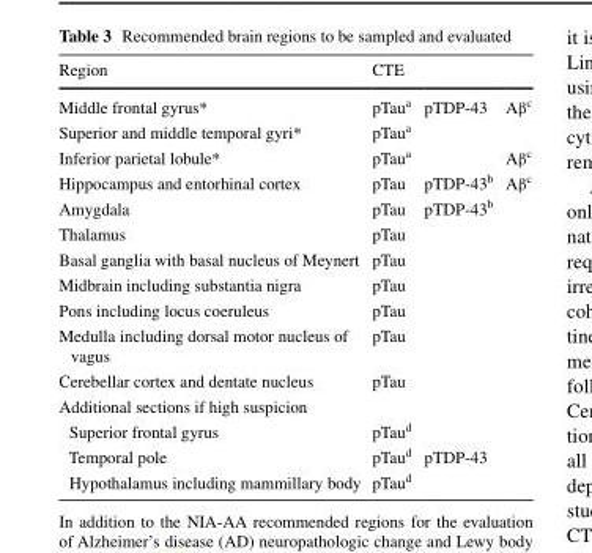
<table><thead><tr><td>Region</td><td>CTE</td><td></td><td></td></tr></thead><tbody><tr><td>Middle frontal gyrus*</td><td>pTau<sup>a</sup></td><td>pTDP-43</td><td>Aβ<sup>c</sup></td></tr><tr><td>Superior and middle temporal gyri*</td><td>pTau<sup>a</sup></td><td></td><td></td></tr><tr><td>Inferior parietal lobule*</td><td>pTau<sup>a</sup></td><td></td><td>Aβ<sup>c</sup></td></tr><tr><td>Hippocampus and entorhinal cortex</td><td>pTau</td><td>pTDP-43<sup>b</sup></td><td>Aβ<sup>c</sup></td></tr><tr><td>Amygdala</td><td>pTau</td><td>pTDP-43<sup>b</sup></td><td></td></tr><tr><td>Thalamus</td><td>pTau</td><td></td><td></td></tr><tr><td>Basal ganglia with basal nucleus of Meynert</td><td>pTau</td><td></td><td></td></tr><tr><td>Midbrain including substantia nigra</td><td>pTau</td><td></td><td></td></tr><tr><td>Pons including locus coeruleus</td><td>pTau</td><td></td><td></td></tr><tr><td>Medulla including dorsal motor nucleus of vagus</td><td>pTau</td><td></td><td></td></tr><tr><td>Cerebellar cortex and dentate nucleus</td><td>pTau</td><td></td><td></td></tr><tr><td colspan="4">Additional sections if high suspicion</td></tr><tr><td>Superior frontal gyrus</td><td>pTau<sup>d</sup></td><td></td><td></td></tr><tr><td>Temporal pole</td><td>pTau<sup>d</sup></td><td>pTDP-43</td><td></td></tr><tr><td>Hypothalamus including mammillary body</td><td>pTau<sup>d</sup></td><td></td><td></td></tr></tbody></table>